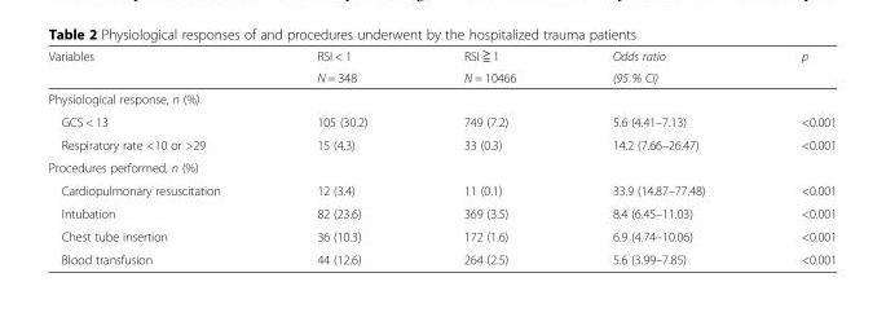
<table><thead><tr><td rowspan="2">Variables</td><td rowspan="2">RSI &lt; 1 N = 348</td><td rowspan="2">RSI ≧ 1 N = 10466</td><td rowspan="2">Odds ratio (95 % CI)</td><td rowspan="2">p</td></tr><tr></tr></thead><tbody><tr><td colspan="5">Physiological response, n (%)</td></tr><tr><td>GCS &lt; 13</td><td>105 (30.2)</td><td>749 (7.2)</td><td>5.6 (4.41–7.13)</td><td>&lt;0.001</td></tr><tr><td>Respiratory rate &lt;10 or &gt;29</td><td>15 (4.3)</td><td>33 (0.3)</td><td>14.2 (7.66–26.47)</td><td>&lt;0.001</td></tr><tr><td colspan="5">Procedures performed, n (%)</td></tr><tr><td>Cardiopulmonary resuscitation</td><td>12 (3.4)</td><td>11 (0.1)</td><td>33.9 (14.87–77.48)</td><td>&lt;0.001</td></tr><tr><td>Intubation</td><td>82 (23.6)</td><td>369 (3.5)</td><td>8.4 (6.45–11.03)</td><td>&lt;0.001</td></tr><tr><td>Chest tube insertion</td><td>36 (10.3)</td><td>172 (1.6)</td><td>6.9 (4.74–10.06)</td><td>&lt;0.001</td></tr><tr><td>Blood transfusion</td><td>44 (12.6)</td><td>264 (2.5)</td><td>5.6 (3.99–7.85)</td><td>&lt;0.001</td></tr></tbody></table>